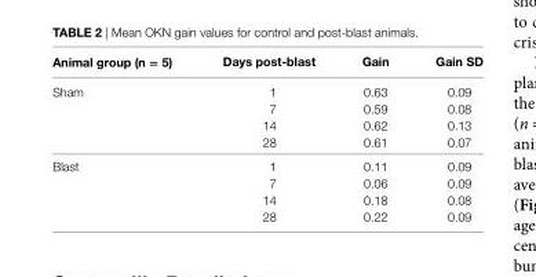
<table><thead><tr><td>animal group (n = 5)</td><td>Days post-blast</td><td>gain</td><td>gain sD</td></tr></thead><tbody><tr><td rowspan="4">Sham</td><td>1</td><td>0.63</td><td>0.09</td></tr><tr><td>7</td><td>0.59</td><td>0.08</td></tr><tr><td>14</td><td>0.62</td><td>0.13</td></tr><tr><td>28</td><td>0.61</td><td>0.07</td></tr><tr><td rowspan="4">Blast</td><td>1</td><td>0.11</td><td>0.09</td></tr><tr><td>7</td><td>0.06</td><td>0.09</td></tr><tr><td>14</td><td>0.18</td><td>0.08</td></tr><tr><td>28</td><td>0.22</td><td>0.09</td></tr></tbody></table>